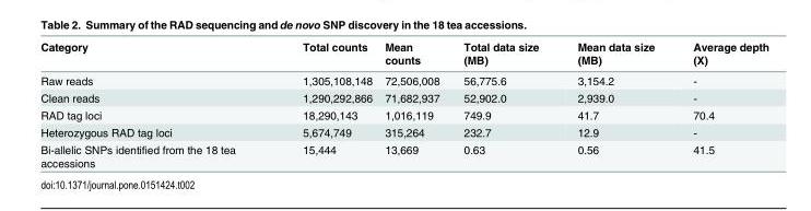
<table><thead><tr><td>Category</td><td>Total counts</td><td>Mean counts</td><td>Total data size (MB)</td><td>Mean data size (MB)</td><td>Average depth (X)</td></tr></thead><tbody><tr><td>Raw reads</td><td>1,305,108,148</td><td>72,506,008</td><td>56,775.6</td><td>3,154.2</td><td>-</td></tr><tr><td>Clean reads</td><td>1,290,292,866</td><td>71,682,937</td><td>52,902.0</td><td>2,939.0</td><td>-</td></tr><tr><td>RAD tag loci</td><td>18,290,143</td><td>1,016,119</td><td>749.9</td><td>41.7</td><td>70.4</td></tr><tr><td>Heterozygous RAD tag loci</td><td>5,674,749</td><td>315,264</td><td>232.7</td><td>12.9</td><td>-</td></tr><tr><td>Bi-allelic SNPs identified from the 18 tea accessions</td><td>15,444</td><td>13,669</td><td>0.63</td><td>0.56</td><td>41.5</td></tr></tbody></table>